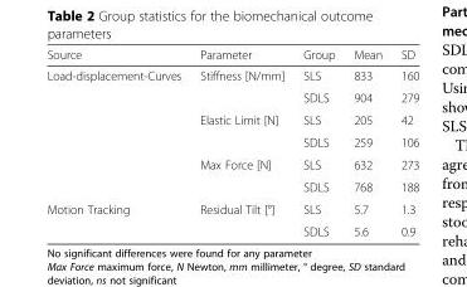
<table><thead><tr><td>Source</td><td>Parameter</td><td>Group</td><td>Mean</td><td>SD</td></tr></thead><tbody><tr><td rowspan="6">Load-displacement-Curves</td><td rowspan="2">Stiffness [N/mm]</td><td>SLS</td><td>833</td><td>160</td></tr><tr><td>SDLS</td><td>904</td><td>279</td></tr><tr><td rowspan="2">Elastic Limit [N]</td><td>SLS</td><td>205</td><td>42</td></tr><tr><td>SDLS</td><td>259</td><td>106</td></tr><tr><td rowspan="2">Max Force [N]</td><td>SLS</td><td>632</td><td>273</td></tr><tr><td>SDLS</td><td>768</td><td>188</td></tr><tr><td rowspan="2">Motion Tracking</td><td rowspan="2">Residual Tilt [°]</td><td>SLS</td><td>5.7</td><td>1.3</td></tr><tr><td>SDLS</td><td>5.6</td><td>0.9</td></tr></tbody></table>